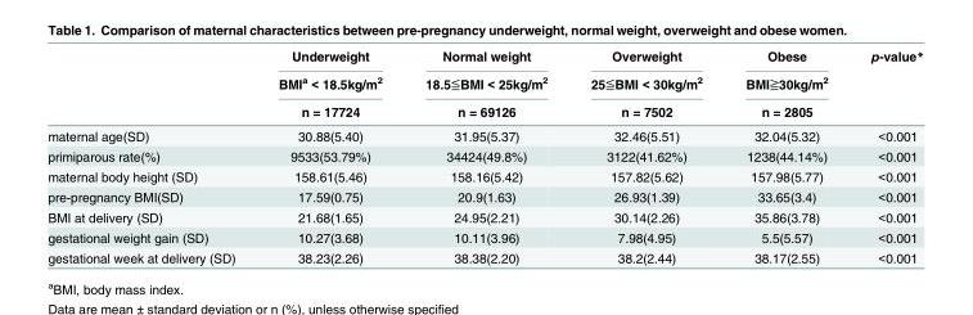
<table><thead><tr><td rowspan="3"></td><td rowspan="3">Underweight BMI<sup>a</sup> &lt; 18.5kg/m<sup>2</sup> n = 17724</td><td rowspan="3">Normal weight 18.5≦BMI &lt; 25kg/m<sup>2</sup> n = 69126</td><td rowspan="3">Overweight 25≦BMI &lt; 30kg/m<sup>2</sup> n = 7502</td><td rowspan="3">Obese BMI≧30kg/m<sup>2</sup> n = 2805</td><td rowspan="3">p-value*</td></tr><tr></tr><tr></tr></thead><tbody><tr><td>maternal age(SD)</td><td>30.88(5.40)</td><td>31.95(5.37)</td><td>32.46(5.51)</td><td>32.04(5.32)</td><td>&lt;0.001</td></tr><tr><td>primiparous rate(%)</td><td>9533(53.79%)</td><td>34424(49.8%)</td><td>3122(41.62%)</td><td>1238(44.14%)</td><td>&lt;0.001</td></tr><tr><td>maternal body height (SD)</td><td>158.61(5.46)</td><td>158.16(5.42)</td><td>157.82(5.62)</td><td>157.98(5.77)</td><td>&lt;0.001</td></tr><tr><td>pre-pregnancy BMI(SD)</td><td>17.59(0.75)</td><td>20.9(1.63)</td><td>26.93(1.39)</td><td>33.65(3.4)</td><td>&lt;0.001</td></tr><tr><td>BMI at delivery (SD)</td><td>21.68(1.65)</td><td>24.95(2.21)</td><td>30.14(2.26)</td><td>35.86(3.78)</td><td>&lt;0.001</td></tr><tr><td>gestational weight gain (SD)</td><td>10.27(3.68)</td><td>10.11(3.96)</td><td>7.98(4.95)</td><td>5.5(5.57)</td><td>&lt;0.001</td></tr><tr><td>gestational week at delivery (SD)</td><td>38.23(2.26)</td><td>38.38(2.20)</td><td>38.2(2.44)</td><td>38.17(2.55)</td><td>&lt;0.001</td></tr></tbody></table>